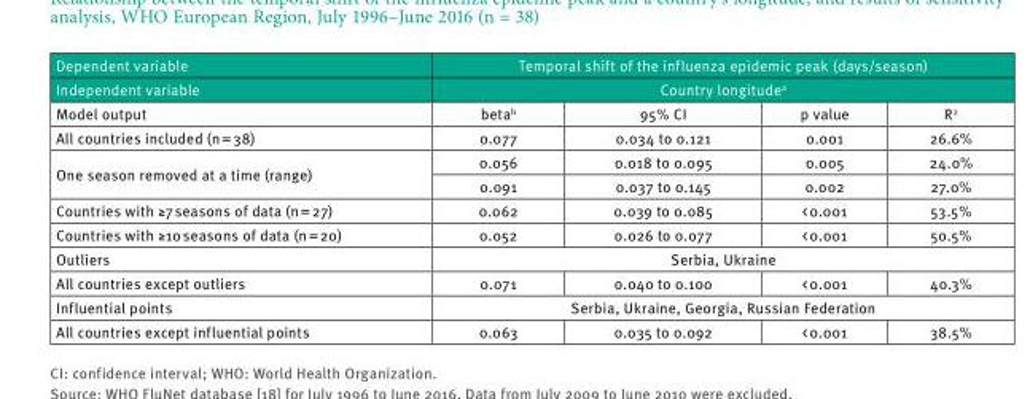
<table><thead><tr><td rowspan="3">Dependent variable Independent variable Model output</td><td rowspan="2" colspan="4">Temporal shift of the influenza epidemic peak (days/season) Country longitude<sup>a</sup></td></tr><tr></tr><tr><td>beta<sup>b</sup></td><td>95% CI</td><td>p value</td><td>R<sup>2</sup></td></tr></thead><tbody><tr><td>All countries included (n = 38)</td><td>0.077</td><td>0.034 to 0.121</td><td>0.001</td><td>26.6%</td></tr><tr><td rowspan="2">One season removed at a time (range)</td><td>0.056</td><td>0.018 to 0.095</td><td>0.005</td><td>24.0%</td></tr><tr><td>0.091</td><td>0.037 to 0.145</td><td>0.002</td><td>27.0%</td></tr><tr><td>Countries with ≥7 seasons of data (n = 27)</td><td>0.062</td><td>0.039 to 0.085</td><td>&lt; 0.001</td><td>53.5%</td></tr><tr><td>Countries with ≥10 seasons of data (n = 20)</td><td>0.052</td><td>0.026 to 0.077</td><td>&lt; 0.001</td><td>50.5%</td></tr><tr><td>Outliers</td><td colspan="4">Serbia, Ukraine</td></tr><tr><td>All countries except outliers</td><td>0.071</td><td>0.040 to 0.100</td><td>&lt; 0.001</td><td>40.3%</td></tr><tr><td>Influential points</td><td colspan="4">Serbia, Ukraine, Georgia, Russian Federation</td></tr><tr><td>All countries except influential points</td><td>0.063</td><td>0.035 to 0.092</td><td>&lt; 0.001</td><td>38.5%</td></tr></tbody></table>